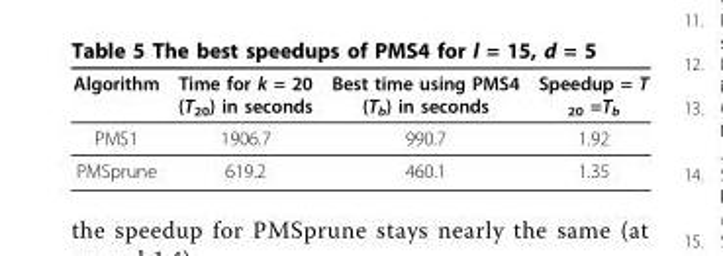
<table><thead><tr><td>Algorithm</td><td>Time for k = 20 (T<sub>20</sub>) in seconds</td><td>Best time using PMS4 (T<sub>b</sub>) in seconds</td><td>Speedup = T <sub>20</sub> =T<sub>b</sub></td></tr></thead><tbody><tr><td>PMS1</td><td>1906.7</td><td>990.7</td><td>1.92</td></tr><tr><td>PMSprune</td><td>619.2</td><td>460.1</td><td>1.35</td></tr></tbody></table>